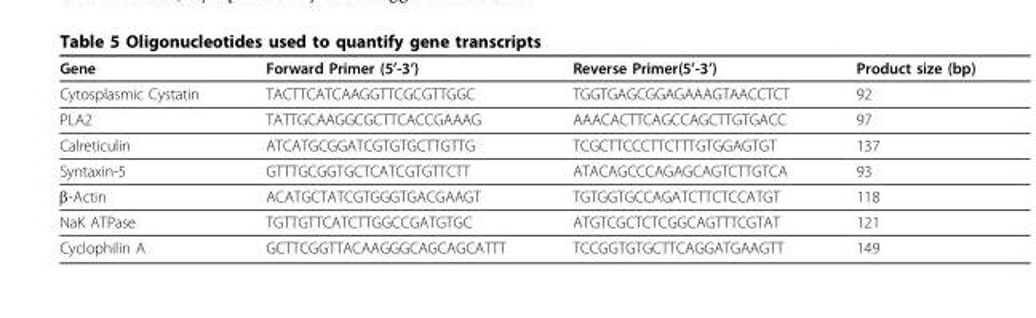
<table><thead><tr><td>Gene</td><td>Forward Primer (5’-3’)</td><td>Reverse Primer(5’-3’)</td><td>Product size (bp)</td></tr></thead><tbody><tr><td>Cytosplasmic Cystatin</td><td>TACTTCATCAAGGTTCGCGTTGGC</td><td>TGGTGAGCGGAGAAAGTAACCTCT</td><td>92</td></tr><tr><td>PLA2</td><td>TATTGCAAGGCGCTTCACCGAAAG</td><td>AAACACTTCAGCCAGCTTGTGACC</td><td>97</td></tr><tr><td>Calreticulin</td><td>ATCATGCGGATCGTGTGCTTGTTG</td><td>TCGCTTCCCTTCTTTGTGGAGTGT</td><td>137</td></tr><tr><td>Syntaxin-5</td><td>GTTTGCGGTGCTCATCGTGTTCTT</td><td>ATACAGCCCAGAGCAGTCTTGTCA</td><td>93</td></tr><tr><td>β-Actin</td><td>ACATGCTATCGTGGGTGACGAAGT</td><td>TGTGGTGCCAGATCTTCTCCATGT</td><td>118</td></tr><tr><td>NaK ATPase</td><td>TGTTGTTCATCTTGGCCGATGTGC</td><td>ATGTCGCTCTCGGCAGTTTCGTAT</td><td>121</td></tr><tr><td>Cyclophilin A</td><td>GCTTCGGTTACAAGGGCAGCAGCATTT</td><td>TCCGGTGTGCTTCAGGATGAAGTT</td><td>149</td></tr></tbody></table>